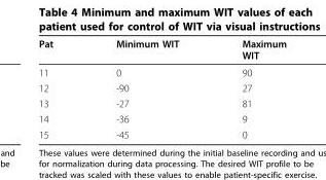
<table><thead><tr><td>Pat</td><td>Minimum WIT</td><td>Maximum WIT</td></tr></thead><tbody><tr><td>11</td><td>0</td><td>90</td></tr><tr><td>12</td><td>-90</td><td>27</td></tr><tr><td>13</td><td>-27</td><td>81</td></tr><tr><td>14</td><td>-36</td><td>9</td></tr><tr><td>15</td><td>-45</td><td>0</td></tr></tbody></table>